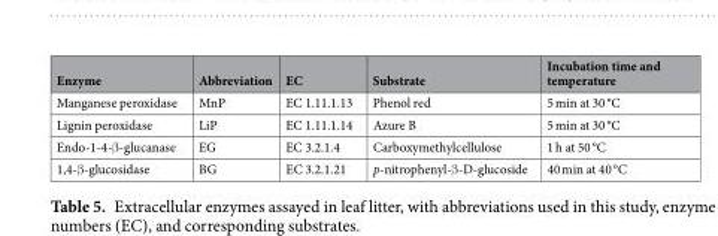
<table><thead><tr><td>Enzyme</td><td>Abbreviation</td><td>EC</td><td>Substrate</td><td>Incubation time and temperature</td></tr></thead><tbody><tr><td>Manganese peroxidase</td><td>MnP</td><td>EC 1.11.1.13</td><td>Phenol red</td><td>5 min at 30 °C</td></tr><tr><td>Lignin peroxidase</td><td>LiP</td><td>EC 1.11.1.14</td><td>Azure B</td><td>5 min at 30 °C</td></tr><tr><td>Endo-1-4-β-glucanase</td><td>EG</td><td>EC 3.2.1.4</td><td>Carboxymethylcellulose</td><td>1 h at 50 °C</td></tr><tr><td>1,4-β-glucosidase</td><td>BG</td><td>EC 3.2.1.21</td><td>p-nitrophenyl-β-D-glucoside</td><td>40 min at 40 °C</td></tr></tbody></table>